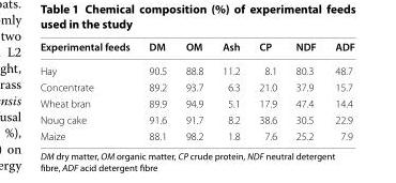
<table><thead><tr><td>Experimental feeds</td><td>DM</td><td>OM</td><td>Ash</td><td>CP</td><td>NDF</td><td>ADF</td></tr></thead><tbody><tr><td>Hay</td><td>90.5</td><td>88.8</td><td>11.2</td><td>8.1</td><td>80.3</td><td>48.7</td></tr><tr><td>Concentrate</td><td>89.2</td><td>93.7</td><td>6.3</td><td>21.0</td><td>37.9</td><td>15.7</td></tr><tr><td>Wheat bran</td><td>89.9</td><td>94.9</td><td>5.1</td><td>17.9</td><td>47.4</td><td>14.4</td></tr><tr><td>Noug cake</td><td>91.6</td><td>91.7</td><td>8.2</td><td>38.6</td><td>30.5</td><td>22.9</td></tr><tr><td>Maize</td><td>88.1</td><td>98.2</td><td>1.8</td><td>7.6</td><td>25.2</td><td>7.9</td></tr></tbody></table>